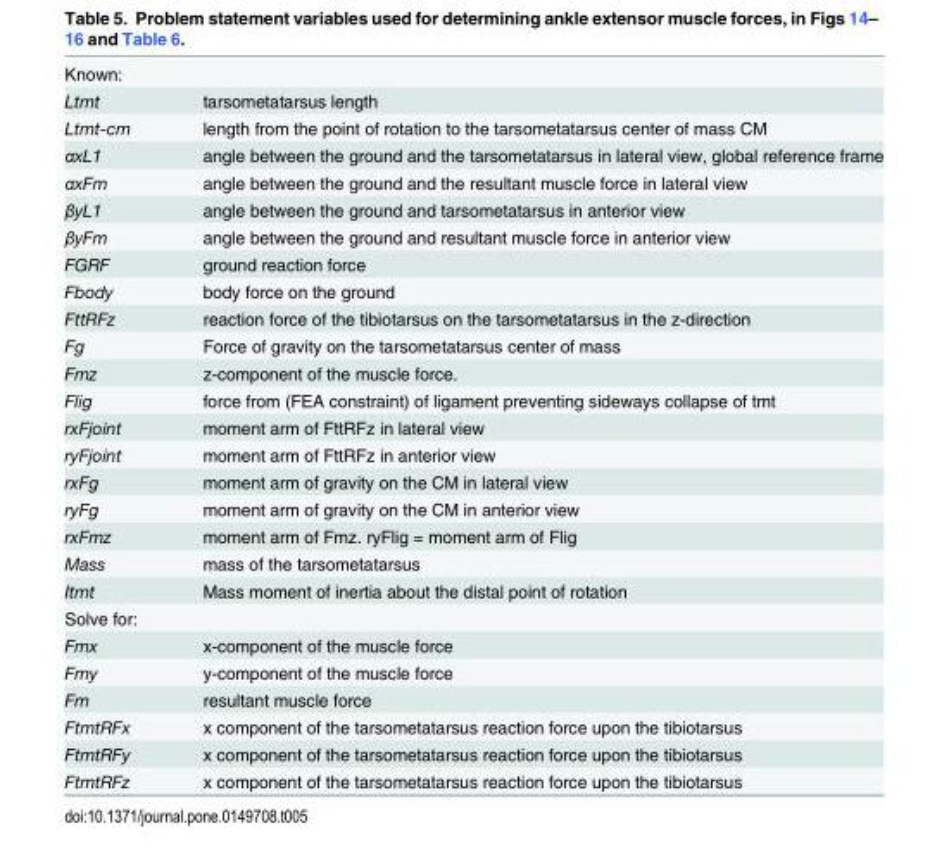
<table><tbody><tr><td colspan="2">Known:</td></tr><tr><td>Ltmt</td><td>tarsometatarsus length</td></tr><tr><td>Ltmt-cm</td><td>length from the point of rotation to the tarsometatarsus center of mass CM</td></tr><tr><td>αxL1</td><td>angle between the ground and the tarsometatarsus in lateral view, global reference frame</td></tr><tr><td>αxFm</td><td>angle between the ground and the resultant muscle force in lateral view</td></tr><tr><td>βyL1</td><td>angle between the ground and tarsometatarsus in anterior view</td></tr><tr><td>βyFm</td><td>angle between the ground and resultant muscle force in anterior view</td></tr><tr><td>FGRF</td><td>ground reaction force</td></tr><tr><td>Fbody</td><td>body force on the ground</td></tr><tr><td>FttRFz</td><td>reaction force of the tibiotarsus on the tarsometatarsus in the z-direction</td></tr><tr><td>Fg</td><td>Force of gravity on the tarsometatarsus center of mass</td></tr><tr><td>Fmz</td><td>z-component of the muscle force.</td></tr><tr><td>Flig</td><td>force from (FEA constraint) of ligament preventing sideways collapse of tmt</td></tr><tr><td>rxFjoint</td><td>moment arm of FttRFz in lateral view</td></tr><tr><td>ryFjoint</td><td>moment arm of FttRFz in anterior view</td></tr><tr><td>rxFg</td><td>moment arm of gravity on the CM in lateral view</td></tr><tr><td>ryFg</td><td>moment arm of gravity on the CM in anterior view</td></tr><tr><td>rxFmz</td><td>moment arm of Fmz. ryFlig = moment arm of Flig</td></tr><tr><td>Mass</td><td>mass of the tarsometatarsus</td></tr><tr><td>Itmt</td><td>Mass moment of inertia about the distal point of rotation</td></tr><tr><td colspan="2">Solve for:</td></tr><tr><td>Fmx</td><td>x-component of the muscle force</td></tr><tr><td>Fmy</td><td>y-component of the muscle force</td></tr><tr><td>Fm</td><td>resultant muscle force</td></tr><tr><td>FtmtRFx</td><td>x component of the tarsometatarsus reaction force upon the tibiotarsus</td></tr><tr><td>FtmtRFy</td><td>x component of the tarsometatarsus reaction force upon the tibiotarsus</td></tr><tr><td>FtmtRFz</td><td>x component of the tarsometatarsus reaction force upon the tibiotarsus</td></tr></tbody></table>